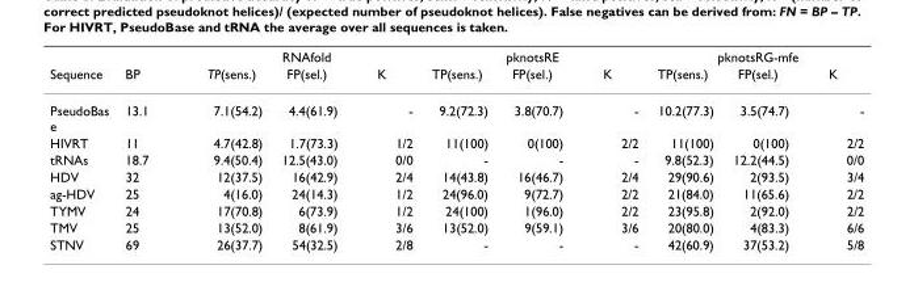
<table><thead><tr><td rowspan="2">Sequence</td><td rowspan="2">BP</td><td colspan="3">RNAfold</td><td colspan="3">pknotsRE</td><td colspan="3">pknotsRG-mfe</td></tr><tr><td>TP(sens.)</td><td>FP(sel.)</td><td>K</td><td>TP(sens.)</td><td>FP(sel.)</td><td>K</td><td>TP(sens.)</td><td>FP(sel.)</td><td>K</td></tr></thead><tbody><tr><td>PseudoBas e</td><td>13.1</td><td>7.1(54.2)</td><td>4.4(61.9)</td><td>-</td><td>9.2(72.3)</td><td>3.8(70.7)</td><td>-</td><td>10.2(77.3)</td><td>3.5(74.7)</td><td>-</td></tr><tr><td>HIVRT</td><td>11</td><td>4.7(42.8)</td><td>1.7(73.3)</td><td>1/2</td><td>11(100)</td><td>0(100)</td><td>2/2</td><td>11(100)</td><td>0(100)</td><td>2/2</td></tr><tr><td>tRNAs</td><td>18.7</td><td>9.4(50.4)</td><td>12.5(43.0)</td><td>0/0</td><td>-</td><td>-</td><td>-</td><td>9.8(52.3)</td><td>12.2(44.5)</td><td>0/0</td></tr><tr><td>HDV</td><td>32</td><td>12(37.5)</td><td>16(42.9)</td><td>2/4</td><td>14(43.8)</td><td>16(46.7)</td><td>2/4</td><td>29(90.6)</td><td>2(93.5)</td><td>3/4</td></tr><tr><td>ag-HDV</td><td>25</td><td>4(16.0)</td><td>24(14.3)</td><td>1/2</td><td>24(96.0)</td><td>9(72.7)</td><td>2/2</td><td>21(84.0)</td><td>11(65.6)</td><td>2/2</td></tr><tr><td>TYMV</td><td>24</td><td>17(70.8)</td><td>6(73.9)</td><td>1/2</td><td>24(100)</td><td>1(96.0)</td><td>2/2</td><td>23(95.8)</td><td>2(92.0)</td><td>2/2</td></tr><tr><td>TMV</td><td>25</td><td>13(52.0)</td><td>8(61.9)</td><td>3/6</td><td>13(52.0)</td><td>9(59.1)</td><td>3/6</td><td>20(80.0)</td><td>4(83.3)</td><td>6/6</td></tr><tr><td>STNV</td><td>69</td><td>26(37.7)</td><td>54(32.5)</td><td>2/8</td><td>-</td><td>-</td><td>-</td><td>42(60.9)</td><td>37(53.2)</td><td>5/8</td></tr></tbody></table>